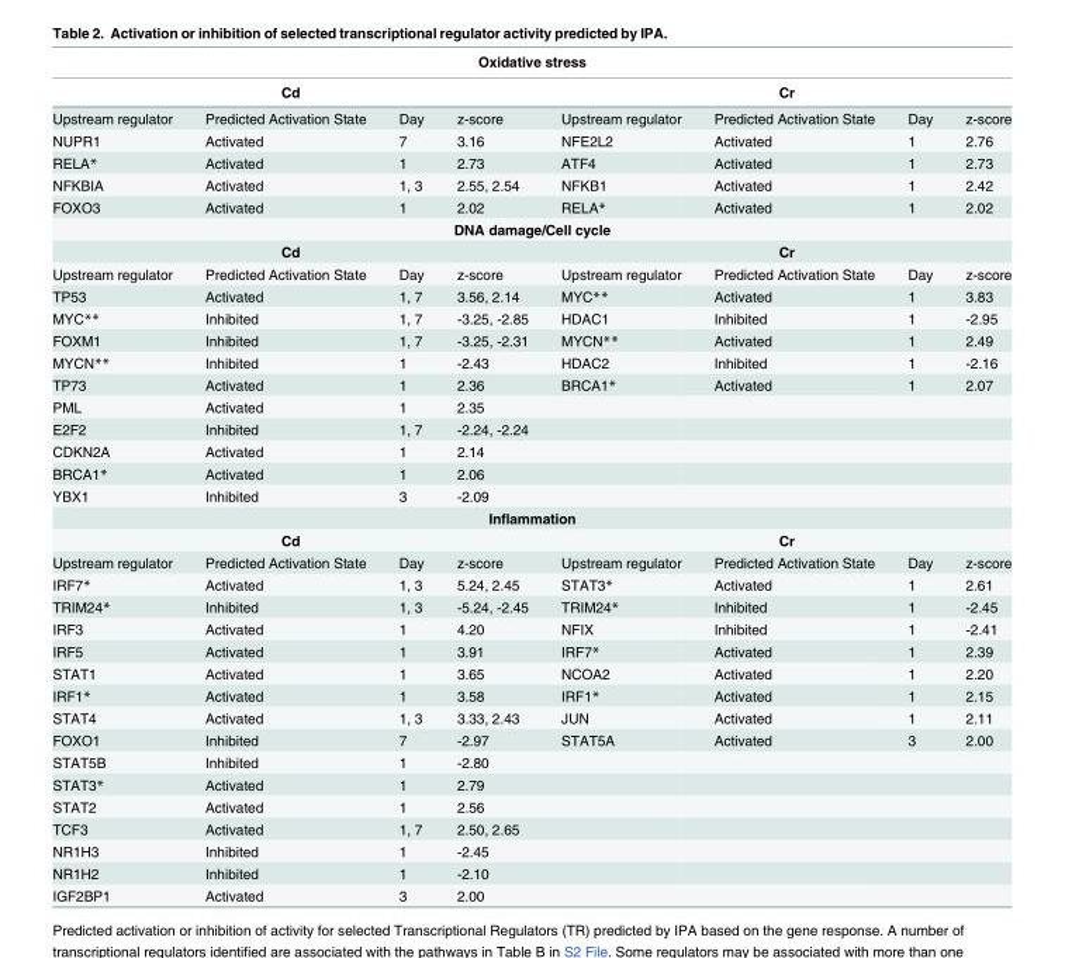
<table><thead><tr><td colspan="8">Oxidative stress</td></tr><tr><td colspan="4">Cd</td><td colspan="4">Cr</td></tr><tr><td>Upstream regulator</td><td>Predicted Activation State</td><td>Day</td><td>z-score</td><td>Upstream regulator</td><td>Predicted Activation State</td><td>Day</td><td>z-score</td></tr></thead><tbody><tr><td>NUPR1</td><td>Activated</td><td>7</td><td>3.16</td><td>NFE2L2</td><td>Activated</td><td>1</td><td>2.76</td></tr><tr><td>RELA*</td><td>Activated</td><td>1</td><td>2.73</td><td>ATF4</td><td>Activated</td><td>1</td><td>2.73</td></tr><tr><td>NFKBIA</td><td>Activated</td><td>1, 3</td><td>2.55, 2.54</td><td>NFKB1</td><td>Activated</td><td>1</td><td>2.42</td></tr><tr><td>FOXO3</td><td>Activated</td><td>1</td><td>2.02</td><td>RELA*</td><td>Activated</td><td>1</td><td>2.02</td></tr><tr><td colspan="8">DNA damage/Cell cycle</td></tr><tr><td colspan="4">Cd</td><td colspan="4">Cr</td></tr><tr><td>Upstream regulator</td><td>Predicted Activation State</td><td>Day</td><td>z-score</td><td>Upstream regulator</td><td>Predicted Activation State</td><td>Day</td><td>z-score</td></tr><tr><td>TP53</td><td>Activated</td><td>1, 7</td><td>3.56, 2.14</td><td>MYC**</td><td>Activated</td><td>1</td><td>3.83</td></tr><tr><td>MYC**</td><td>Inhibited</td><td>1, 7</td><td>-3.25, -2.85</td><td>HDAC1</td><td>Inhibited</td><td>1</td><td>-2.95</td></tr><tr><td>FOXM1</td><td>Inhibited</td><td>1, 7</td><td>-3.25, -2.31</td><td>MYCN**</td><td>Activated</td><td>1</td><td>2.49</td></tr><tr><td>MYCN**</td><td>Inhibited</td><td>1</td><td>-2.43</td><td>HDAC2</td><td>Inhibited</td><td>1</td><td>-2.16</td></tr><tr><td>TP73</td><td>Activated</td><td>1</td><td>2.36</td><td>BRCA1*</td><td>Activated</td><td>1</td><td>2.07</td></tr><tr><td>PML</td><td>Activated</td><td>1</td><td>2.35</td><td></td><td></td><td></td><td></td></tr><tr><td>E2F2</td><td>Inhibited</td><td>1, 7</td><td>-2.24, -2.24</td><td></td><td></td><td></td><td></td></tr><tr><td>CDKN2A</td><td>Activated</td><td>1</td><td>2.14</td><td></td><td></td><td></td><td></td></tr><tr><td>BRCA1*</td><td>Activated</td><td>1</td><td>2.06</td><td></td><td></td><td></td><td></td></tr><tr><td>YBX1</td><td>Inhibited</td><td>3</td><td>-2.09</td><td></td><td></td><td></td><td></td></tr><tr><td colspan="8">Inflammation</td></tr><tr><td colspan="4">Cd</td><td colspan="4">Cr</td></tr><tr><td>Upstream regulator</td><td>Predicted Activation State</td><td>Day</td><td>z-score</td><td>Upstream regulator</td><td>Predicted Activation State</td><td>Day</td><td>z-score</td></tr><tr><td>IRF7*</td><td>Activated</td><td>1, 3</td><td>5.24, 2.45</td><td>STAT3*</td><td>Activated</td><td>1</td><td>2.61</td></tr><tr><td>TRIM24*</td><td>Inhibited</td><td>1, 3</td><td>-5.24, -2.45</td><td>TRIM24*</td><td>Inhibited</td><td>1</td><td>-2.45</td></tr><tr><td>IRF3</td><td>Activated</td><td>1</td><td>4.20</td><td>NFIX</td><td>Inhibited</td><td>1</td><td>-2.41</td></tr><tr><td>IRF5</td><td>Activated</td><td>1</td><td>3.91</td><td>IRF7*</td><td>Activated</td><td>1</td><td>2.39</td></tr><tr><td>STAT1</td><td>Activated</td><td>1</td><td>3.65</td><td>NCOA2</td><td>Activated</td><td>1</td><td>2.20</td></tr><tr><td>IRF1*</td><td>Activated</td><td>1</td><td>3.58</td><td>IRF1*</td><td>Activated</td><td>1</td><td>2.15</td></tr><tr><td>STAT4</td><td>Activated</td><td>1, 3</td><td>3.33, 2.43</td><td>JUN</td><td>Activated</td><td>1</td><td>2.11</td></tr><tr><td>FOXO1</td><td>Inhibited</td><td>7</td><td>-2.97</td><td>STAT5A</td><td>Activated</td><td>3</td><td>2.00</td></tr><tr><td>STAT5B</td><td>Inhibited</td><td>1</td><td>-2.80</td><td></td><td></td><td></td><td></td></tr><tr><td>STAT3*</td><td>Activated</td><td>1</td><td>2.79</td><td></td><td></td><td></td><td></td></tr><tr><td>STAT2</td><td>Activated</td><td>1</td><td>2.56</td><td></td><td></td><td></td><td></td></tr><tr><td>TCF3</td><td>Activated</td><td>1, 7</td><td>2.50, 2.65</td><td></td><td></td><td></td><td></td></tr><tr><td>NR1H3</td><td>Inhibited</td><td>1</td><td>-2.45</td><td></td><td></td><td></td><td></td></tr><tr><td>NR1H2</td><td>Inhibited</td><td>1</td><td>-2.10</td><td></td><td></td><td></td><td></td></tr><tr><td>IGF2BP1</td><td>Activated</td><td>3</td><td>2.00</td><td></td><td></td><td></td><td></td></tr></tbody></table>